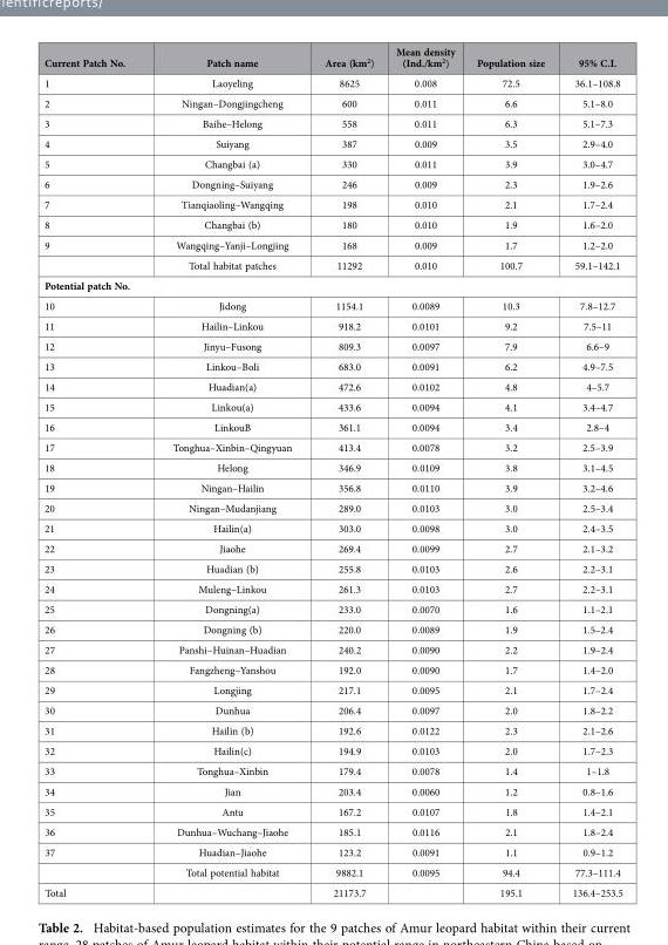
<table><thead><tr><td>Current Patch No.</td><td>Patch name</td><td>Area (km<sup>2</sup>)</td><td>Mean density (Ind./km<sup>2</sup>)</td><td>Population size</td><td>95% C.I.</td></tr></thead><tbody><tr><td>1</td><td>Laoyeling</td><td>8625</td><td>0.008</td><td>72.5</td><td>36.1–108.8</td></tr><tr><td>2</td><td>Ningan–Dongjingcheng</td><td>600</td><td>0.011</td><td>6.6</td><td>5.1–8.0</td></tr><tr><td>3</td><td>Baihe–Helong</td><td>558</td><td>0.011</td><td>6.3</td><td>5.1–7.3</td></tr><tr><td>4</td><td>Suiyang</td><td>387</td><td>0.009</td><td>3.5</td><td>2.9–4.0</td></tr><tr><td>5</td><td>Changbai (a)</td><td>330</td><td>0.011</td><td>3.9</td><td>3.0–4.7</td></tr><tr><td>6</td><td>Dongning–Suiyang</td><td>246</td><td>0.009</td><td>2.3</td><td>1.9–2.6</td></tr><tr><td>7</td><td>Tianqiaoling–Wangqing</td><td>198</td><td>0.010</td><td>2.1</td><td>1.7–2.4</td></tr><tr><td>8</td><td>Changbai (b)</td><td>180</td><td>0.010</td><td>1.9</td><td>1.6–2.0</td></tr><tr><td rowspan="2">9</td><td>Wangqing–Yanji–Longjing</td><td>168</td><td>0.009</td><td>1.7</td><td>1.2–2.0</td></tr><tr><td>Total habitat patches</td><td>11292</td><td>0.010</td><td>100.7</td><td>59.1–142.1</td></tr><tr><td colspan="6">Potential patch No.</td></tr><tr><td>10</td><td>Jidong</td><td>1154.1</td><td>0.0089</td><td>10.3</td><td>7.8–12.7</td></tr><tr><td>11</td><td>Hailin–Linkou</td><td>918.2</td><td>0.0101</td><td>9.2</td><td>7.5–11</td></tr><tr><td>12</td><td>Jinyu–Fusong</td><td>809.3</td><td>0.0097</td><td>7.9</td><td>6.6–9</td></tr><tr><td>13</td><td>Linkou–Boli</td><td>683.0</td><td>0.0091</td><td>6.2</td><td>4.9–7.5</td></tr><tr><td>14</td><td>Huadian(a)</td><td>472.6</td><td>0.0102</td><td>4.8</td><td>4–5.7</td></tr><tr><td>15</td><td>Linkou(a)</td><td>433.6</td><td>0.0094</td><td>4.1</td><td>3.4–4.7</td></tr><tr><td>16</td><td>LinkouB</td><td>361.1</td><td>0.0094</td><td>3.4</td><td>2.8–4</td></tr><tr><td>17</td><td>Tonghua–Xinbin–Qingyuan</td><td>413.4</td><td>0.0078</td><td>3.2</td><td>2.5–3.9</td></tr><tr><td>18</td><td>Helong</td><td>346.9</td><td>0.0109</td><td>3.8</td><td>3.1–4.5</td></tr><tr><td>19</td><td>Ningan–Hailin</td><td>356.8</td><td>0.0110</td><td>3.9</td><td>3.2–4.6</td></tr><tr><td>20</td><td>Ningan–Mudanjiang</td><td>289.0</td><td>0.0103</td><td>3.0</td><td>2.5–3.4</td></tr><tr><td>21</td><td>Hailin(a)</td><td>303.0</td><td>0.0098</td><td>3.0</td><td>2.4–3.5</td></tr><tr><td>22</td><td>Jiaohe</td><td>269.4</td><td>0.0099</td><td>2.7</td><td>2.1–3.2</td></tr><tr><td>23</td><td>Huadian (b)</td><td>255.8</td><td>0.0103</td><td>2.6</td><td>2.2–3.1</td></tr><tr><td>24</td><td>Muleng–Linkou</td><td>261.3</td><td>0.0103</td><td>2.7</td><td>2.2–3.1</td></tr><tr><td>25</td><td>Dongning(a)</td><td>233.0</td><td>0.0070</td><td>1.6</td><td>1.1–2.1</td></tr><tr><td>26</td><td>Dongning (b)</td><td>220.0</td><td>0.0089</td><td>1.9</td><td>1.5–2.4</td></tr><tr><td>27</td><td>Panshi–Huinan–Huadian</td><td>240.2</td><td>0.0090</td><td>2.2</td><td>1.9–2.4</td></tr><tr><td>28</td><td>Fangzheng–Yanshou</td><td>192.0</td><td>0.0090</td><td>1.7</td><td>1.4–2.0</td></tr><tr><td>29</td><td>Longjing</td><td>217.1</td><td>0.0095</td><td>2.1</td><td>1.7–2.4</td></tr><tr><td>30</td><td>Dunhua</td><td>206.4</td><td>0.0097</td><td>2.0</td><td>1.8–2.2</td></tr><tr><td>31</td><td>Hailin (b)</td><td>192.6</td><td>0.0122</td><td>2.3</td><td>2.1–2.6</td></tr><tr><td>32</td><td>Hailin(c)</td><td>194.9</td><td>0.0103</td><td>2.0</td><td>1.7–2.3</td></tr><tr><td>33</td><td>Tonghua–Xinbin</td><td>179.4</td><td>0.0078</td><td>1.4</td><td>1–1.8</td></tr><tr><td>34</td><td>Jian</td><td>203.4</td><td>0.0060</td><td>1.2</td><td>0.8–1.6</td></tr><tr><td>35</td><td>Antu</td><td>167.2</td><td>0.0107</td><td>1.8</td><td>1.4–2.1</td></tr><tr><td>36</td><td>Dunhua–Wuchang–Jiaohe</td><td>185.1</td><td>0.0116</td><td>2.1</td><td>1.8–2.4</td></tr><tr><td rowspan="2">37</td><td>Huadian–Jiaohe</td><td>123.2</td><td>0.0091</td><td>1.1</td><td>0.9–1.2</td></tr><tr><td>Total potential habitat</td><td>9882.1</td><td>0.0095</td><td>94.4</td><td>77.3–111.4</td></tr><tr><td>Total</td><td></td><td>21173.7</td><td></td><td>195.1</td><td>136.4–253.5</td></tr></tbody></table>